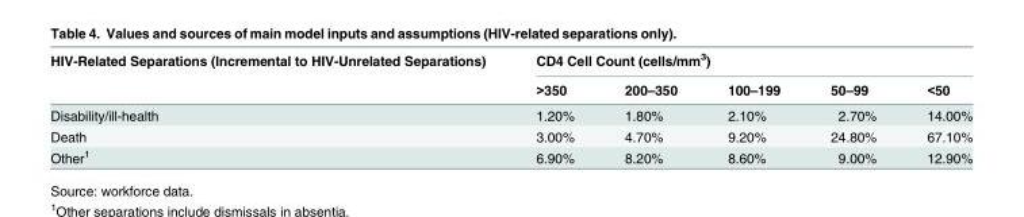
<table><thead><tr><td rowspan="2">HIV-Related Separations (Incremental to HIV-Unrelated Separations)</td><td colspan="5">CD4 Cell Count (cells/mm<sup>3</sup>)</td></tr><tr><td>&gt;350</td><td>200–350</td><td>100–199</td><td>50–99</td><td>&lt;50</td></tr></thead><tbody><tr><td>Disability/ill-health</td><td>1.20%</td><td>1.80%</td><td>2.10%</td><td>2.70%</td><td>14.00%</td></tr><tr><td>Death</td><td>3.00%</td><td>4.70%</td><td>9.20%</td><td>24.80%</td><td>67.10%</td></tr><tr><td>Other<sup>1</sup></td><td>6.90%</td><td>8.20%</td><td>8.60%</td><td>9.00%</td><td>12.90%</td></tr></tbody></table>